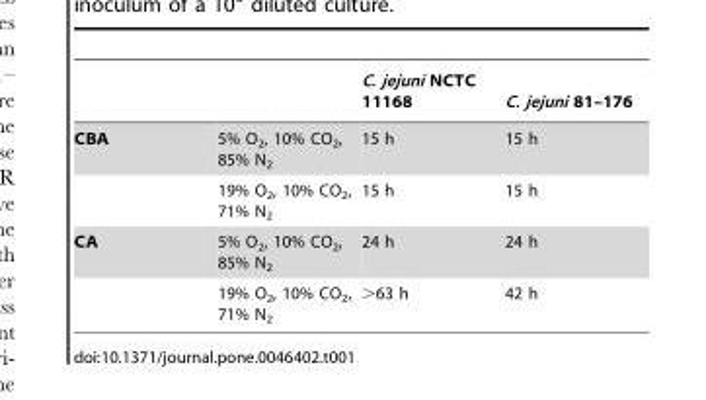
<table><thead><tr><td></td><td></td><td>C. jejuni NCTC 11168</td><td>C. jejuni 81–176</td></tr></thead><tbody><tr><td rowspan="2">CBA</td><td>5% O<sub>2</sub>, 10% CO<sub>2</sub>, 85% N<sub>2</sub></td><td>15 h</td><td>15 h</td></tr><tr><td>19% O<sub>2</sub>, 10% CO<sub>2</sub>, 71% N<sub>2</sub></td><td>15 h</td><td>15 h</td></tr><tr><td rowspan="2">CA</td><td>5% O<sub>2</sub>, 10% CO<sub>2</sub>, 85% N<sub>2</sub></td><td>24 h</td><td>24 h</td></tr><tr><td>19% O<sub>2</sub>, 10% CO<sub>2</sub>, 71% N<sub>2</sub></td><td>&gt;63 h</td><td>42 h</td></tr></tbody></table>